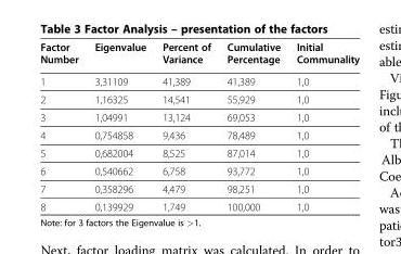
<table><thead><tr><td>Factor Number</td><td>Eigenvalue</td><td>Percent of Variance</td><td>Cumulative Percentage</td><td>Initial Communality</td></tr></thead><tbody><tr><td>1</td><td>3,31109</td><td>41,389</td><td>41,389</td><td>1,0</td></tr><tr><td>2</td><td>1,16325</td><td>14,541</td><td>55,929</td><td>1,0</td></tr><tr><td>3</td><td>1,04991</td><td>13,124</td><td>69,053</td><td>1,0</td></tr><tr><td>4</td><td>0,754858</td><td>9,436</td><td>78,489</td><td>1,0</td></tr><tr><td>5</td><td>0,682004</td><td>8,525</td><td>87,014</td><td>1,0</td></tr><tr><td>6</td><td>0,540662</td><td>6,758</td><td>93,772</td><td>1,0</td></tr><tr><td>7</td><td>0,358296</td><td>4,479</td><td>98,251</td><td>1,0</td></tr><tr><td>8</td><td>0,139929</td><td>1,749</td><td>100,000</td><td>1,0</td></tr></tbody></table>